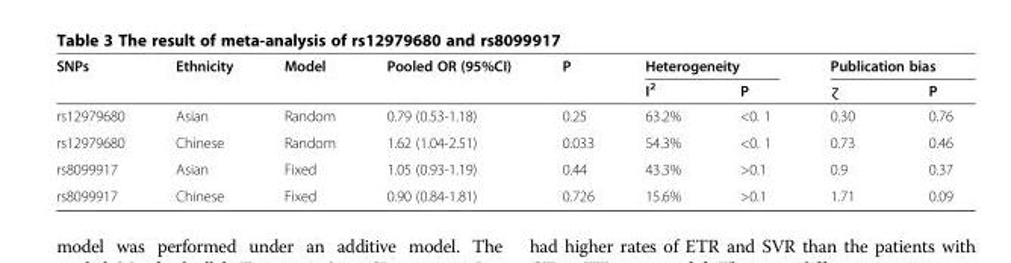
<table><thead><tr><td rowspan="2">SNPs</td><td rowspan="2">Ethnicity</td><td rowspan="2">Model</td><td rowspan="2">Pooled OR (95%CI)</td><td rowspan="2">P</td><td colspan="2">Heterogeneity</td><td colspan="2">Publication bias</td></tr><tr><td>I<sup>2</sup></td><td>P</td><td>ɀ</td><td>P</td></tr></thead><tbody><tr><td>rs12979680</td><td>Asian</td><td>Random</td><td>0.79 (0.53-1.18)</td><td>0.25</td><td>63.2%</td><td>&lt;0. 1</td><td>0.30</td><td>0.76</td></tr><tr><td>rs12979680</td><td>Chinese</td><td>Random</td><td>1.62 (1.04-2.51)</td><td>0.033</td><td>54.3%</td><td>&lt;0. 1</td><td>0.73</td><td>0.46</td></tr><tr><td>rs8099917</td><td>Asian</td><td>Fixed</td><td>1.05 (0.93-1.19)</td><td>0.44</td><td>43.3%</td><td>&gt;0.1</td><td>0.9</td><td>0.37</td></tr><tr><td>rs8099917</td><td>Chinese</td><td>Fixed</td><td>0.90 (0.84-1.81)</td><td>0.726</td><td>15.6%</td><td>&gt;0.1</td><td>1.71</td><td>0.09</td></tr></tbody></table>